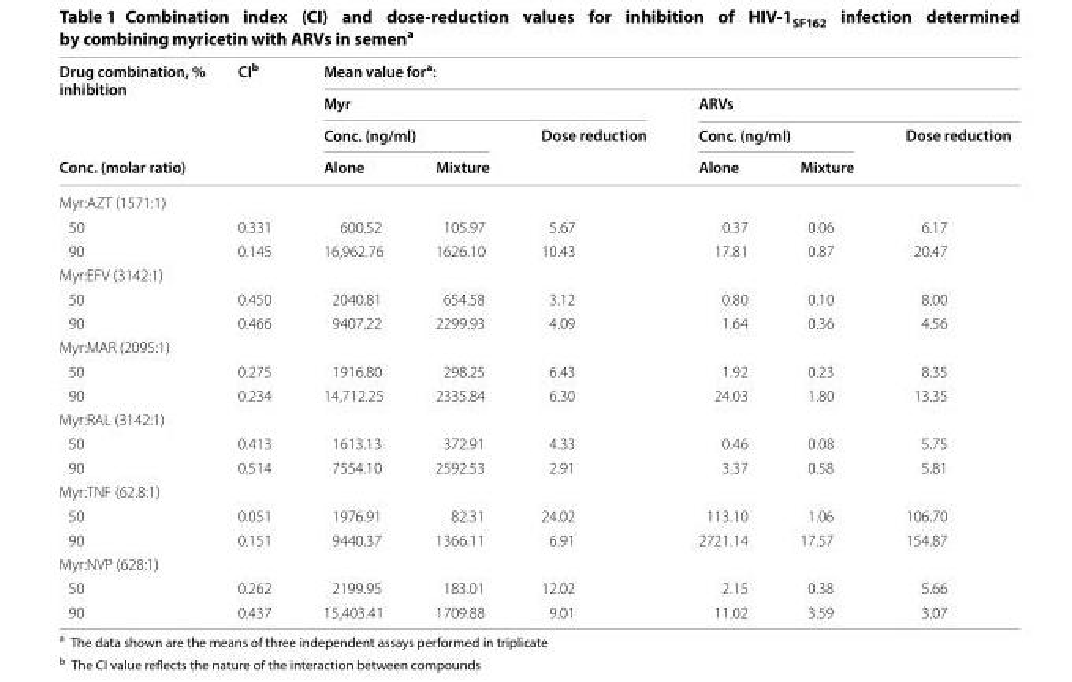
<table><thead><tr><td rowspan="4">Drug combination, % inhibition Conc. (molar ratio)</td><td rowspan="4">CI<sup>b</sup></td><td colspan="6">Mean value for<sup>a</sup>:</td></tr><tr><td colspan="3">Myr</td><td colspan="3">ARVs</td></tr><tr><td colspan="2">Conc. (ng/ml)</td><td rowspan="2">Dose reduction</td><td colspan="2">Conc. (ng/ml)</td><td rowspan="2">Dose reduction</td></tr><tr><td>Alone</td><td>Mixture</td><td>Alone</td><td>Mixture</td></tr></thead><tbody><tr><td colspan="8">Myr:AZT (1571:1)</td></tr><tr><td>50</td><td>0.331</td><td>600.52</td><td>105.97</td><td>5.67</td><td>0.37</td><td>0.06</td><td>6.17</td></tr><tr><td>90</td><td>0.145</td><td>16,962.76</td><td>1626.10</td><td>10.43</td><td>17.81</td><td>0.87</td><td>20.47</td></tr><tr><td colspan="8">Myr:EFV (3142:1)</td></tr><tr><td>50</td><td>0.450</td><td>2040.81</td><td>654.58</td><td>3.12</td><td>0.80</td><td>0.10</td><td>8.00</td></tr><tr><td>90</td><td>0.466</td><td>9407.22</td><td>2299.93</td><td>4.09</td><td>1.64</td><td>0.36</td><td>4.56</td></tr><tr><td colspan="8">Myr:MAR (2095:1)</td></tr><tr><td>50</td><td>0.275</td><td>1916.80</td><td>298.25</td><td>6.43</td><td>1.92</td><td>0.23</td><td>8.35</td></tr><tr><td>90</td><td>0.234</td><td>14,712.25</td><td>2335.84</td><td>6.30</td><td>24.03</td><td>1.80</td><td>13.35</td></tr><tr><td colspan="8">Myr:RAL (3142:1)</td></tr><tr><td>50</td><td>0.413</td><td>1613.13</td><td>372.91</td><td>4.33</td><td>0.46</td><td>0.08</td><td>5.75</td></tr><tr><td>90</td><td>0.514</td><td>7554.10</td><td>2592.53</td><td>2.91</td><td>3.37</td><td>0.58</td><td>5.81</td></tr><tr><td colspan="8">Myr:TNF (62.8:1)</td></tr><tr><td>50</td><td>0.051</td><td>1976.91</td><td>82.31</td><td>24.02</td><td>113.10</td><td>1.06</td><td>106.70</td></tr><tr><td>90</td><td>0.151</td><td>9440.37</td><td>1366.11</td><td>6.91</td><td>2721.14</td><td>17.57</td><td>154.87</td></tr><tr><td colspan="8">Myr:NVP (628:1)</td></tr><tr><td>50</td><td>0.262</td><td>2199.95</td><td>183.01</td><td>12.02</td><td>2.15</td><td>0.38</td><td>5.66</td></tr><tr><td>90</td><td>0.437</td><td>15,403.41</td><td>1709.88</td><td>9.01</td><td>11.02</td><td>3.59</td><td>3.07</td></tr></tbody></table>